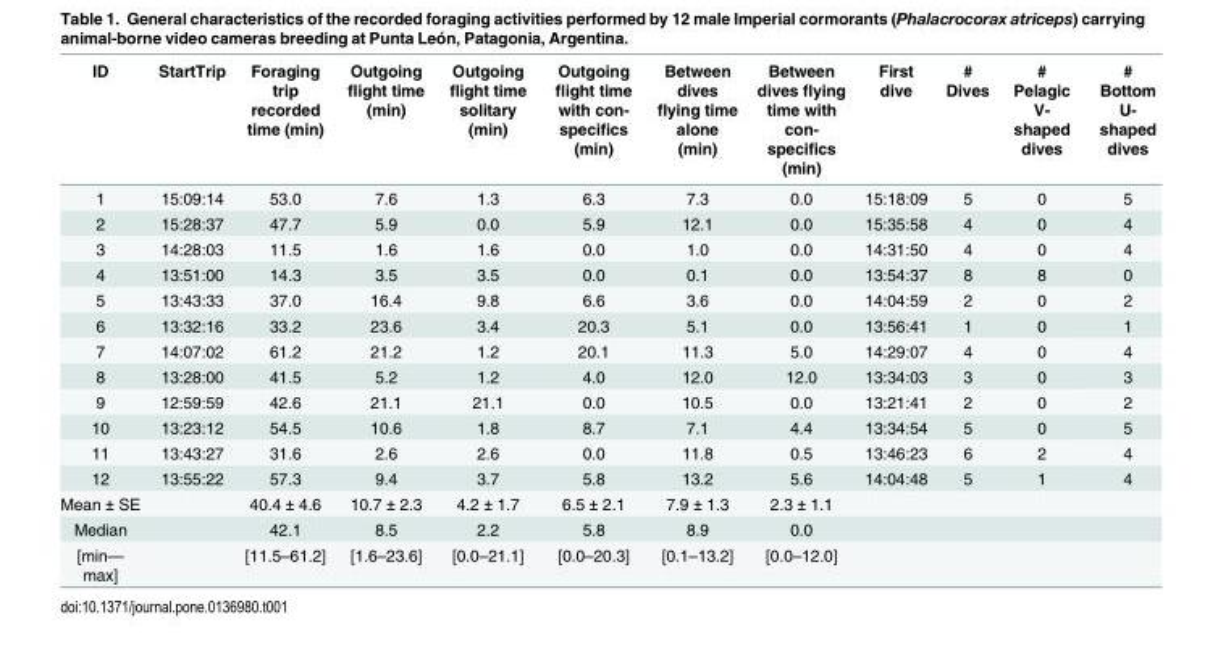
<table><thead><tr><td>ID</td><td>StartTrip</td><td>Foraging trip recorded time (min)</td><td>Outgoing flight time (min)</td><td>Outgoing flight time solitary (min)</td><td>Outgoing flight time with con- specifics (min)</td><td>Between dives flying time alone (min)</td><td>Between dives flying time with con- specifics (min)</td><td>First dive</td><td># Dives</td><td># Pelagic V- shaped dives</td><td># Bottom U- shaped dives</td></tr></thead><tbody><tr><td>1</td><td>15:09:14</td><td>53.0</td><td>7.6</td><td>1.3</td><td>6.3</td><td>7.3</td><td>0.0</td><td>15:18:09</td><td>5</td><td>0</td><td>5</td></tr><tr><td>2</td><td>15:28:37</td><td>47.7</td><td>5.9</td><td>0.0</td><td>5.9</td><td>12.1</td><td>0.0</td><td>15:35:58</td><td>4</td><td>0</td><td>4</td></tr><tr><td>3</td><td>14:28:03</td><td>11.5</td><td>1.6</td><td>1.6</td><td>0.0</td><td>1.0</td><td>0.0</td><td>14:31:50</td><td>4</td><td>0</td><td>4</td></tr><tr><td>4</td><td>13:51:00</td><td>14.3</td><td>3.5</td><td>3.5</td><td>0.0</td><td>0.1</td><td>0.0</td><td>13:54:37</td><td>8</td><td>8</td><td>0</td></tr><tr><td>5</td><td>13:43:33</td><td>37.0</td><td>16.4</td><td>9.8</td><td>6.6</td><td>3.6</td><td>0.0</td><td>14:04:59</td><td>2</td><td>0</td><td>2</td></tr><tr><td>6</td><td>13:32:16</td><td>33.2</td><td>23.6</td><td>3.4</td><td>20.3</td><td>5.1</td><td>0.0</td><td>13:56:41</td><td>1</td><td>0</td><td>1</td></tr><tr><td>7</td><td>14:07:02</td><td>61.2</td><td>21.2</td><td>1.2</td><td>20.1</td><td>11.3</td><td>5.0</td><td>14:29:07</td><td>4</td><td>0</td><td>4</td></tr><tr><td>8</td><td>13:28:00</td><td>41.5</td><td>5.2</td><td>1.2</td><td>4.0</td><td>12.0</td><td>12.0</td><td>13:34:03</td><td>3</td><td>0</td><td>3</td></tr><tr><td>9</td><td>12:59:59</td><td>42.6</td><td>21.1</td><td>21.1</td><td>0.0</td><td>10.5</td><td>0.0</td><td>13:21:41</td><td>2</td><td>0</td><td>2</td></tr><tr><td>10</td><td>13:23:12</td><td>54.5</td><td>10.6</td><td>1.8</td><td>8.7</td><td>7.1</td><td>4.4</td><td>13:34:54</td><td>5</td><td>0</td><td>5</td></tr><tr><td>11</td><td>13:43:27</td><td>31.6</td><td>2.6</td><td>2.6</td><td>0.0</td><td>11.8</td><td>0.5</td><td>13:46:23</td><td>6</td><td>2</td><td>4</td></tr><tr><td>12</td><td>13:55:22</td><td>57.3</td><td>9.4</td><td>3.7</td><td>5.8</td><td>13.2</td><td>5.6</td><td>14:04:48</td><td>5</td><td>1</td><td>4</td></tr><tr><td>Mean ± SE</td><td></td><td>40.4 ± 4.6</td><td>10.7 ± 2.3</td><td>4.2 ± 1.7</td><td>6.5 ± 2.1</td><td>7.9 ± 1.3</td><td>2.3 ± 1.1</td><td></td><td></td><td></td><td></td></tr><tr><td>Median</td><td></td><td>42.1</td><td>8.5</td><td>2.2</td><td>5.8</td><td>8.9</td><td>0.0</td><td></td><td></td><td></td><td></td></tr><tr><td>[min— max]</td><td></td><td>[11.5–61.2]</td><td>[1.6–23.6]</td><td>[0.0–21.1]</td><td>[0.0–20.3]</td><td>[0.1–13.2]</td><td>[0.0–12.0]</td><td></td><td></td><td></td><td></td></tr></tbody></table>